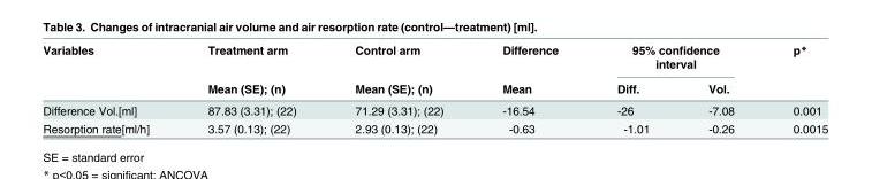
<table><thead><tr><td rowspan="2">Variables</td><td rowspan="2">Treatment arm Mean (SE); (n)</td><td rowspan="2">Control arm Mean (SE); (n)</td><td rowspan="2">Difference Mean</td><td colspan="2">95% confidence interval</td><td rowspan="2">p*</td></tr><tr><td>Diff.</td><td>Vol.</td></tr></thead><tbody><tr><td>Difference Vol.[ml]</td><td>87.83 (3.31); (22)</td><td>71.29 (3.31); (22)</td><td>-16.54</td><td>-26</td><td>-7.08</td><td>0.001</td></tr><tr><td>Resorption rate[ml/h]</td><td>3.57 (0.13); (22)</td><td>2.93 (0.13); (22)</td><td>-0.63</td><td>-1.01</td><td>-0.26</td><td>0.0015</td></tr></tbody></table>